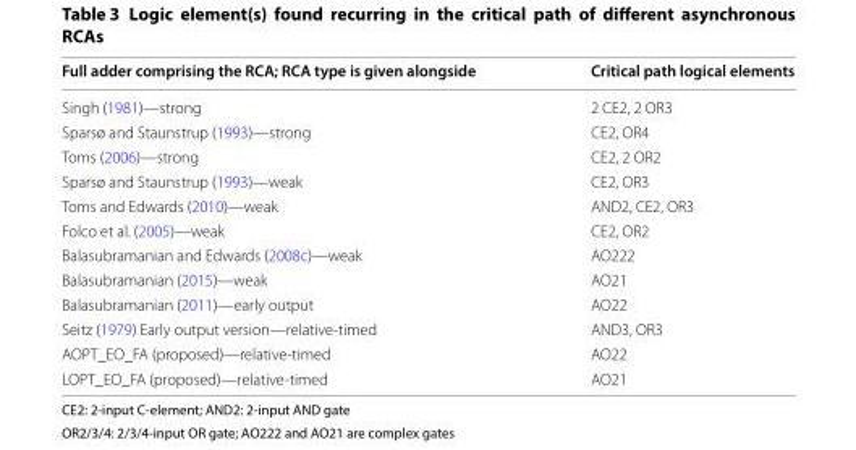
<table><thead><tr><td>Full adder comprising the RCA; RCA type is given alongside</td><td>Critical path logical elements</td></tr></thead><tbody><tr><td>Singh (1981)—strong</td><td>2 CE2, 2 OR3</td></tr><tr><td>Sparsø and Staunstrup (1993)—strong</td><td>CE2, OR4</td></tr><tr><td>Toms (2006)—strong</td><td>CE2, 2 OR2</td></tr><tr><td>Sparsø and Staunstrup (1993)—weak</td><td>CE2, OR3</td></tr><tr><td>Toms and Edwards (2010)—weak</td><td>AND2, CE2, OR3</td></tr><tr><td>Folco et al. (2005)—weak</td><td>CE2, OR2</td></tr><tr><td>Balasubramanian and Edwards (2008c)—weak</td><td>AO222</td></tr><tr><td>Balasubramanian (2015)—weak</td><td>AO21</td></tr><tr><td>Balasubramanian (2011)—early output</td><td>AO22</td></tr><tr><td>Seitz (1979) Early output version—relative-timed</td><td>AND3, OR3</td></tr><tr><td>AOPT_EO_FA (proposed)—relative-timed</td><td>AO22</td></tr><tr><td>LOPT_EO_FA (proposed)—relative-timed</td><td>AO21</td></tr></tbody></table>